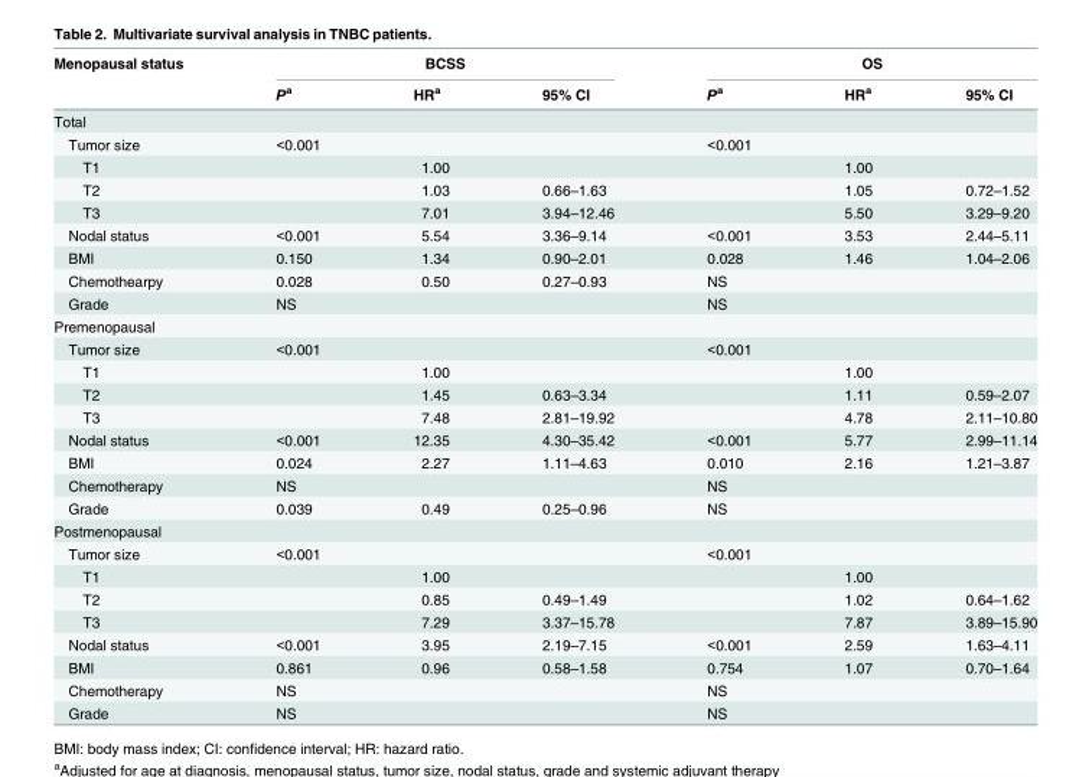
<table><thead><tr><td rowspan="2">Menopausal status</td><td colspan="3">BCSS</td><td colspan="3">OS</td></tr><tr><td>P<sup>a</sup></td><td>HR<sup>a</sup></td><td>95% CI</td><td>P<sup>a</sup></td><td>HR<sup>a</sup></td><td>95% CI</td></tr></thead><tbody><tr><td colspan="7">Total</td></tr><tr><td>Tumor size</td><td>&lt;0.001</td><td></td><td></td><td>&lt;0.001</td><td></td><td></td></tr><tr><td>T1</td><td></td><td>1.00</td><td></td><td></td><td>1.00</td><td></td></tr><tr><td>T2</td><td></td><td>1.03</td><td>0.66–1.63</td><td></td><td>1.05</td><td>0.72–1.52</td></tr><tr><td>T3</td><td></td><td>7.01</td><td>3.94–12.46</td><td></td><td>5.50</td><td>3.29–9.20</td></tr><tr><td>Nodal status</td><td>&lt;0.001</td><td>5.54</td><td>3.36–9.14</td><td>&lt;0.001</td><td>3.53</td><td>2.44–5.11</td></tr><tr><td>BMI</td><td>0.150</td><td>1.34</td><td>0.90–2.01</td><td>0.028</td><td>1.46</td><td>1.04–2.06</td></tr><tr><td>Chemothearpy</td><td>0.028</td><td>0.50</td><td>0.27–0.93</td><td>NS</td><td></td><td></td></tr><tr><td>Grade</td><td>NS</td><td></td><td></td><td>NS</td><td></td><td></td></tr><tr><td colspan="7">Premenopausal</td></tr><tr><td>Tumor size</td><td>&lt;0.001</td><td></td><td></td><td>&lt;0.001</td><td></td><td></td></tr><tr><td>T1</td><td></td><td>1.00</td><td></td><td></td><td>1.00</td><td></td></tr><tr><td>T2</td><td></td><td>1.45</td><td>0.63–3.34</td><td></td><td>1.11</td><td>0.59–2.07</td></tr><tr><td>T3</td><td></td><td>7.48</td><td>2.81–19.92</td><td></td><td>4.78</td><td>2.11–10.80</td></tr><tr><td>Nodal status</td><td>&lt;0.001</td><td>12.35</td><td>4.30–35.42</td><td>&lt;0.001</td><td>5.77</td><td>2.99–11.14</td></tr><tr><td>BMI</td><td>0.024</td><td>2.27</td><td>1.11–4.63</td><td>0.010</td><td>2.16</td><td>1.21–3.87</td></tr><tr><td>Chemotherapy</td><td>NS</td><td></td><td></td><td>NS</td><td></td><td></td></tr><tr><td>Grade</td><td>0.039</td><td>0.49</td><td>0.25–0.96</td><td>NS</td><td></td><td></td></tr><tr><td colspan="7">Postmenopausal</td></tr><tr><td>Tumor size</td><td>&lt;0.001</td><td></td><td></td><td>&lt;0.001</td><td></td><td></td></tr><tr><td>T1</td><td></td><td>1.00</td><td></td><td></td><td>1.00</td><td></td></tr><tr><td>T2</td><td></td><td>0.85</td><td>0.49–1.49</td><td></td><td>1.02</td><td>0.64–1.62</td></tr><tr><td>T3</td><td></td><td>7.29</td><td>3.37–15.78</td><td></td><td>7.87</td><td>3.89–15.90</td></tr><tr><td>Nodal status</td><td>&lt;0.001</td><td>3.95</td><td>2.19–7.15</td><td>&lt;0.001</td><td>2.59</td><td>1.63–4.11</td></tr><tr><td>BMI</td><td>0.861</td><td>0.96</td><td>0.58–1.58</td><td>0.754</td><td>1.07</td><td>0.70–1.64</td></tr><tr><td>Chemotherapy</td><td>NS</td><td></td><td></td><td>NS</td><td></td><td></td></tr><tr><td>Grade</td><td>NS</td><td></td><td></td><td>NS</td><td></td><td></td></tr></tbody></table>